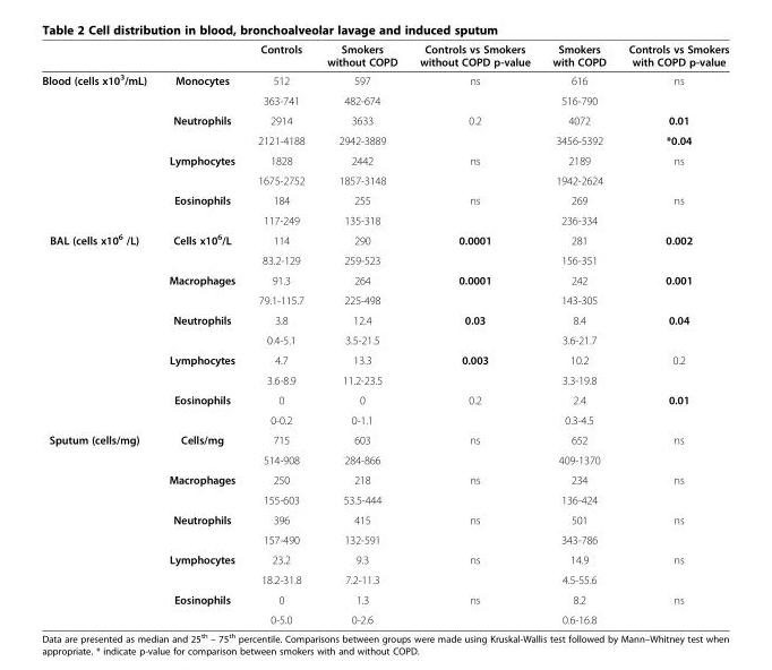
<table><thead><tr><td></td><td></td><td>Controls</td><td>Smokers without COPD</td><td>Controls vs Smokers without COPD p-value</td><td>Smokers with COPD</td><td>Controls vs Smokers with COPD p-value</td></tr></thead><tbody><tr><td rowspan="8">Blood (cells x10<sup>3</sup>/mL)</td><td rowspan="2">Monocytes</td><td>512</td><td>597</td><td rowspan="2">ns</td><td>616</td><td rowspan="2">ns</td></tr><tr><td>363-741</td><td>482-674</td><td>516-790</td></tr><tr><td rowspan="2">Neutrophils</td><td>2914</td><td>3633</td><td rowspan="2">0.2</td><td>4072</td><td>0.01</td></tr><tr><td>2121-4188</td><td>2942-3889</td><td>3456-5392</td><td>*0.04</td></tr><tr><td rowspan="2">Lymphocytes</td><td>1828</td><td>2442</td><td>ns</td><td>2189</td><td rowspan="2">ns</td></tr><tr><td>1675-2752</td><td>1857-3148</td><td></td><td>1942-2624</td></tr><tr><td rowspan="2">Eosinophils</td><td>184</td><td>255</td><td rowspan="2">ns</td><td>269</td><td rowspan="2">ns</td></tr><tr><td>117-249</td><td>135-318</td><td>236-334</td></tr><tr><td rowspan="10">BAL (cells x10<sup>6</sup> /L)</td><td rowspan="2">Cells x10<sup>6</sup>/L</td><td>114</td><td>290</td><td rowspan="2">0.0001</td><td>281</td><td>0.002</td></tr><tr><td>83.2-129</td><td>259-523</td><td>156-351</td><td></td></tr><tr><td rowspan="2">Macrophages</td><td>91.3</td><td>264</td><td rowspan="2">0.0001</td><td>242</td><td rowspan="2">0.001</td></tr><tr><td>79.1-115.7</td><td>225-498</td><td>143-305</td></tr><tr><td rowspan="2">Neutrophils</td><td>3.8</td><td>12.4</td><td rowspan="2">0.03</td><td>8.4</td><td rowspan="2">0.04</td></tr><tr><td>0.4-5.1</td><td>3.5-21.5</td><td>3.6-21.7</td></tr><tr><td rowspan="2">Lymphocytes</td><td>4.7</td><td>13.3</td><td rowspan="2">0.003</td><td>10.2</td><td rowspan="2">0.2</td></tr><tr><td>3.6-8.9</td><td>11.2-23.5</td><td>3.3-19.8</td></tr><tr><td rowspan="2">Eosinophils</td><td>0</td><td>0</td><td rowspan="2">0.2</td><td>2.4</td><td rowspan="2">0.01</td></tr><tr><td>0-0.2</td><td>0-1.1</td><td>0.3-4.5</td></tr><tr><td rowspan="10">Sputum (cells/mg)</td><td rowspan="2">Cells/mg</td><td>715</td><td>603</td><td rowspan="2">ns</td><td>652</td><td rowspan="2">ns</td></tr><tr><td>514-908</td><td>284-866</td><td>409-1370</td></tr><tr><td rowspan="2">Macrophages</td><td>250</td><td>218</td><td rowspan="2">ns</td><td>234</td><td rowspan="2">ns</td></tr><tr><td>155-603</td><td>53.5-444</td><td>136-424</td></tr><tr><td rowspan="2">Neutrophils</td><td>396</td><td>415</td><td rowspan="2">ns</td><td>501</td><td rowspan="2">ns</td></tr><tr><td>157-490</td><td>132-591</td><td>343-786</td></tr><tr><td rowspan="2">Lymphocytes</td><td>23.2</td><td>9.3</td><td rowspan="2">ns</td><td>14.9</td><td rowspan="2">ns</td></tr><tr><td>18.2-31.8</td><td>7.2-11.3</td><td>4.5-55.6</td></tr><tr><td rowspan="2">Eosinophils</td><td>0</td><td>1.3</td><td rowspan="2">ns</td><td>8.2</td><td rowspan="2">ns</td></tr><tr><td>0-5.0</td><td>0-2.6</td><td>0.6-16.8</td></tr></tbody></table>